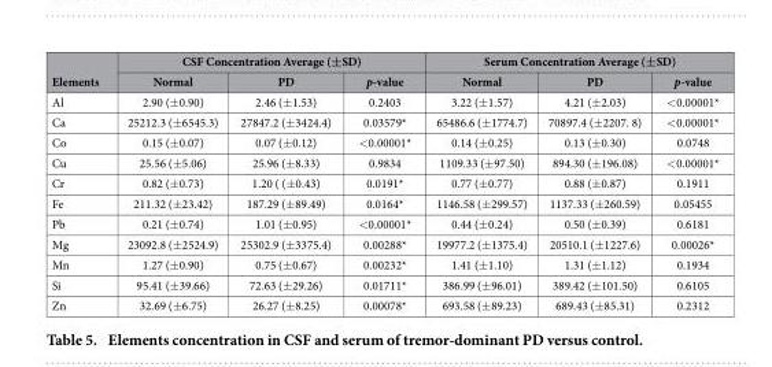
<table><thead><tr><td rowspan="2">Elements</td><td colspan="3">CSF Concentration Average (±SD)</td><td colspan="3">Serum Concentration Average (±SD)</td></tr><tr><td>Normal</td><td>PD</td><td>p-value</td><td>Normal</td><td>PD</td><td>p-value</td></tr></thead><tbody><tr><td>Al</td><td>2.90 (± 0.90)</td><td>2.46 (± 1.53)</td><td>0.2403</td><td>3.22 (± 1.57)</td><td>4.21 (± 2.03)</td><td>&lt; 0.00001*</td></tr><tr><td>Ca</td><td>25212.3 (± 6545.3)</td><td>27847.2 (± 3424.4)</td><td>0.03579*</td><td>65486.6 (± 1774.7)</td><td>70897.4 (± 2207. 8)</td><td>&lt; 0.00001*</td></tr><tr><td>Co</td><td>0.15 (± 0.07)</td><td>0.07 (± 0.12)</td><td>&lt; 0.00001*</td><td>0.14 (± 0.25)</td><td>0.13 (± 0.30)</td><td>0.0748</td></tr><tr><td>Cu</td><td>25.56 (± 5.06)</td><td>25.96 (± 8.33)</td><td>0.9834</td><td>1109.33 (± 97.50)</td><td>894.30 (± 196.08)</td><td>&lt; 0.00001*</td></tr><tr><td>Cr</td><td>0.82 (± 0.73)</td><td>1.20 ( (± 0.43)</td><td>0.0191*</td><td>0.77 (± 0.77)</td><td>0.88 (± 0.87)</td><td>0.1911</td></tr><tr><td>Fe</td><td>211.32 (± 23.42)</td><td>187.29 (± 89.49)</td><td>0.0164*</td><td>1146.58 (± 299.57)</td><td>1137.33 (± 260.59)</td><td>0.05455</td></tr><tr><td>Pb</td><td>0.21 (± 0.74)</td><td>1.01 (± 0.95)</td><td>&lt; 0.00001*</td><td>0.44 (± 0.24)</td><td>0.50 (± 0.39)</td><td>0.6181</td></tr><tr><td>Mg</td><td>23092.8 (± 2524.9)</td><td>25302.9 (± 3375.4)</td><td>0.00288*</td><td>19977.2 (± 1375.4)</td><td>20510.1 (± 1227.6)</td><td>0.00026*</td></tr><tr><td>Mn</td><td>1.27 (± 0.90)</td><td>0.75 (± 0.67)</td><td>0.00232*</td><td>1.41 (± 1.10)</td><td>1.31 (± 1.12)</td><td>0.1934</td></tr><tr><td>Si</td><td>95.41 (± 39.66)</td><td>72.63 (± 29.26)</td><td>0.01711*</td><td>386.99 (± 96.01)</td><td>389.42 (± 101.50)</td><td>0.6105</td></tr><tr><td>Zn</td><td>32.69 (± 6.75)</td><td>26.27 (± 8.25)</td><td>0.00078*</td><td>693.58 (± 89.23)</td><td>689.43 (± 85.31)</td><td>0.2312</td></tr></tbody></table>